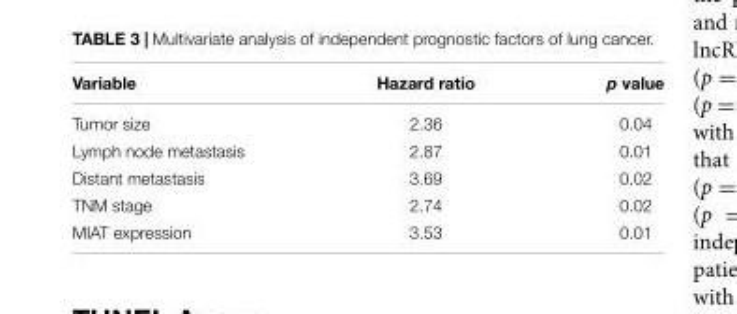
<table><thead><tr><td>Variable</td><td>Hazard ratio</td><td>p value</td></tr></thead><tbody><tr><td>Tumor size</td><td>2.36</td><td>0.04</td></tr><tr><td>Lymph node metastasis</td><td>2.87</td><td>0.01</td></tr><tr><td>Distant metastasis</td><td>3.69</td><td>0.02</td></tr><tr><td>TNM stage</td><td>2.74</td><td>0.02</td></tr><tr><td>MIAT expression</td><td>3.53</td><td>0.01</td></tr></tbody></table>